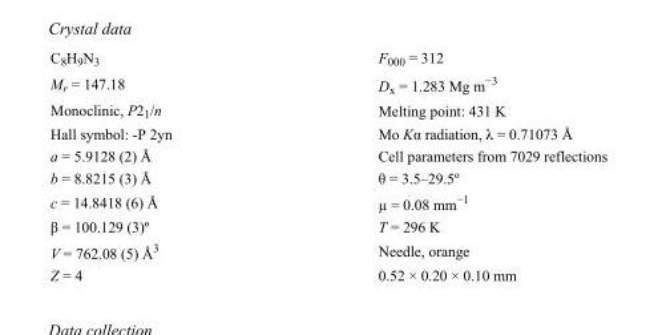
<table><tbody><tr><td>C<sub>8</sub>H<sub>9</sub>N<sub>3</sub></td><td>F000 = 312</td></tr><tr><td>M<sub>r</sub> = 147.18</td><td>D<sub>x</sub> = 1.283 Mg m<sup>−3</sup></td></tr><tr><td>Monoclinic, P2<sub>1</sub>/n</td><td>Melting point: 431 K</td></tr><tr><td>Hall symbol: -P 2yn</td><td>Mo Kα radiation, λ = 0.71073 Å</td></tr><tr><td>a = 5.9128 (2) Å</td><td>Cell parameters from 7029 reflections</td></tr><tr><td>b = 8.8215 (3) Å</td><td>θ = 3.5–29.5º</td></tr><tr><td>c = 14.8418 (6) Å</td><td>µ = 0.08 mm<sup>−1</sup></td></tr><tr><td>β = 100.129 (3)º</td><td>T = 296 K</td></tr><tr><td>V = 762.08 (5) Å<sup>3</sup></td><td>Needle, orange</td></tr><tr><td>Z = 4</td><td>0.52 × 0.20 × 0.10 mm</td></tr></tbody></table>